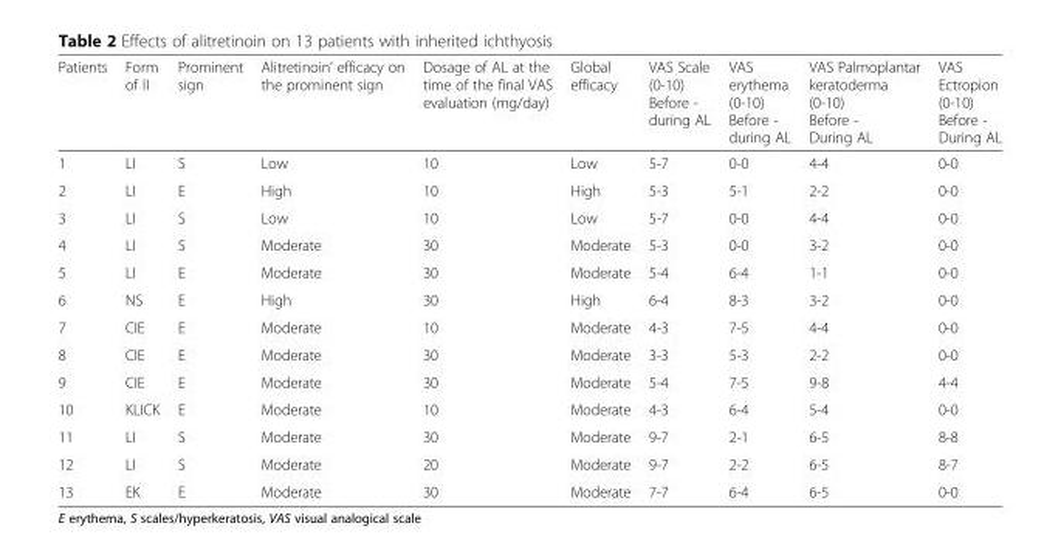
<table><thead><tr><td>Patients</td><td>Form of II</td><td>Prominent sign</td><td>Alitretinoin’ efficacy on the prominent sign</td><td>Dosage of AL at the time of the final VAS evaluation (mg/day)</td><td>Global efficacy</td><td>VAS Scale (0-10) Before - during AL</td><td>VAS erythema (0-10) Before - during AL</td><td>VAS Palmoplantar keratoderma (0-10) Before - During AL</td><td>VAS Ectropion (0-10) Before - During AL</td></tr></thead><tbody><tr><td>1</td><td>LI</td><td>S</td><td>Low</td><td>10</td><td>Low</td><td>5-7</td><td>0-0</td><td>4-4</td><td>0-0</td></tr><tr><td>2</td><td>LI</td><td>E</td><td>High</td><td>10</td><td>High</td><td>5-3</td><td>5-1</td><td>2-2</td><td>0-0</td></tr><tr><td>3</td><td>LI</td><td>S</td><td>Low</td><td>10</td><td>Low</td><td>5-7</td><td>0-0</td><td>4-4</td><td>0-0</td></tr><tr><td>4</td><td>LI</td><td>S</td><td>Moderate</td><td>30</td><td>Moderate</td><td>5-3</td><td>0-0</td><td>3-2</td><td>0-0</td></tr><tr><td>5</td><td>LI</td><td>E</td><td>Moderate</td><td>30</td><td>Moderate</td><td>5-4</td><td>6-4</td><td>1-1</td><td>0-0</td></tr><tr><td>6</td><td>NS</td><td>E</td><td>High</td><td>30</td><td>High</td><td>6-4</td><td>8-3</td><td>3-2</td><td>0-0</td></tr><tr><td>7</td><td>CIE</td><td>E</td><td>Moderate</td><td>10</td><td>Moderate</td><td>4-3</td><td>7-5</td><td>4-4</td><td>0-0</td></tr><tr><td>8</td><td>CIE</td><td>E</td><td>Moderate</td><td>30</td><td>Moderate</td><td>3-3</td><td>5-3</td><td>2-2</td><td>0-0</td></tr><tr><td>9</td><td>CIE</td><td>E</td><td>Moderate</td><td>30</td><td>Moderate</td><td>5-4</td><td>7-5</td><td>9-8</td><td>4-4</td></tr><tr><td>10</td><td>KLICK</td><td>E</td><td>Moderate</td><td>10</td><td>Moderate</td><td>4-3</td><td>6-4</td><td>5-4</td><td>0-0</td></tr><tr><td>11</td><td>LI</td><td>S</td><td>Moderate</td><td>30</td><td>Moderate</td><td>9-7</td><td>2-1</td><td>6-5</td><td>8-8</td></tr><tr><td>12</td><td>LI</td><td>S</td><td>Moderate</td><td>20</td><td>Moderate</td><td>9-7</td><td>2-2</td><td>6-5</td><td>8-7</td></tr><tr><td>13</td><td>EK</td><td>E</td><td>Moderate</td><td>30</td><td>Moderate</td><td>7-7</td><td>6-4</td><td>6-5</td><td>0-0</td></tr></tbody></table>